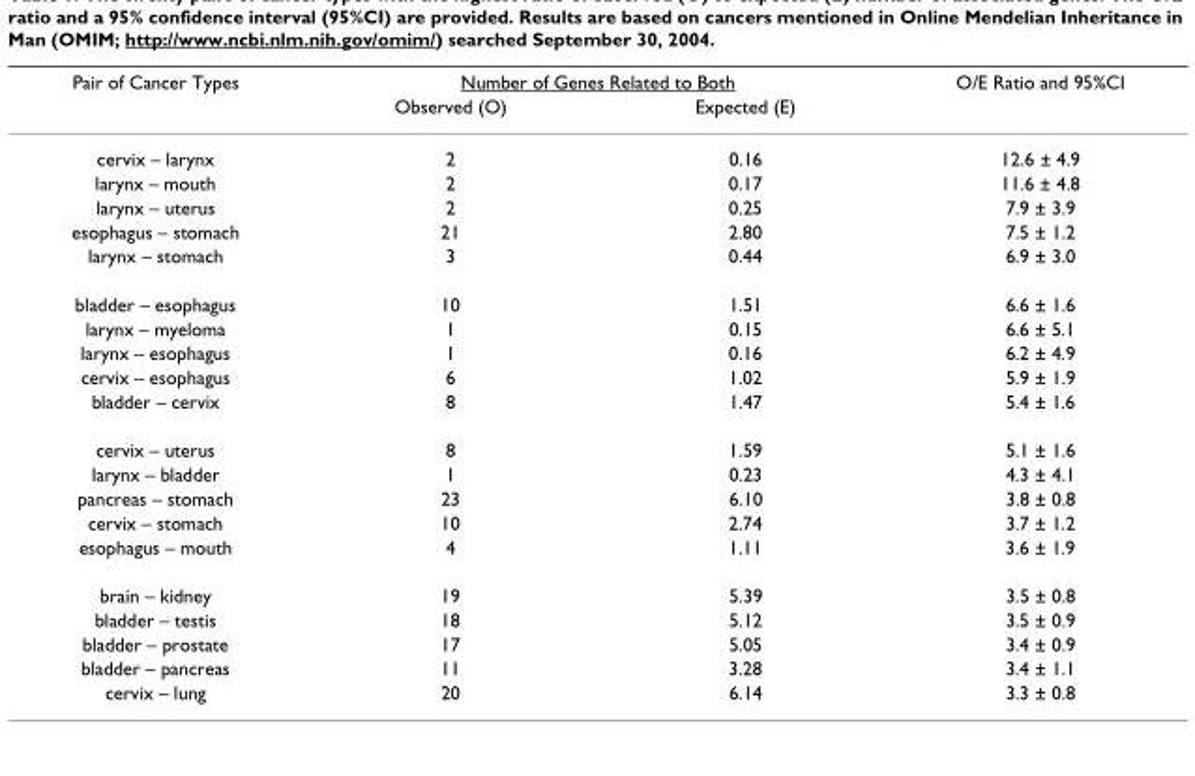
<table><thead><tr><td rowspan="2">Pair of Cancer Types</td><td colspan="2">Number of Genes Related to Both</td><td rowspan="2">O/E Ratio and 95%CI</td></tr><tr><td>Observed (O)</td><td>Expected (E)</td></tr></thead><tbody><tr><td>cervix – larynx</td><td>2</td><td>0.16</td><td>12.6 ± 4.9</td></tr><tr><td>larynx – mouth</td><td>2</td><td>0.17</td><td>11.6 ± 4.8</td></tr><tr><td>larynx – uterus</td><td>2</td><td>0.25</td><td>7.9 ± 3.9</td></tr><tr><td>esophagus – stomach</td><td>21</td><td>2.80</td><td>7.5 ± 1.2</td></tr><tr><td>larynx – stomach</td><td>3</td><td>0.44</td><td>6.9 ± 3.0</td></tr><tr><td>bladder – esophagus</td><td>10</td><td>1.51</td><td>6.6 ± 1.6</td></tr><tr><td>larynx – myeloma</td><td>1</td><td>0.15</td><td>6.6 ± 5.1</td></tr><tr><td>larynx – esophagus</td><td>1</td><td>0.16</td><td>6.2 ± 4.9</td></tr><tr><td>cervix – esophagus</td><td>6</td><td>1.02</td><td>5.9 ± 1.9</td></tr><tr><td>bladder – cervix</td><td>8</td><td>1.47</td><td>5.4 ± 1.6</td></tr><tr><td>cervix – uterus</td><td>8</td><td>1.59</td><td>5.1 ± 1.6</td></tr><tr><td>larynx – bladder</td><td>1</td><td>0.23</td><td>4.3 ± 4.1</td></tr><tr><td>pancreas – stomach</td><td>23</td><td>6.10</td><td>3.8 ± 0.8</td></tr><tr><td>cervix – stomach</td><td>10</td><td>2.74</td><td>3.7 ± 1.2</td></tr><tr><td>esophagus – mouth</td><td>4</td><td>1.11</td><td>3.6 ± 1.9</td></tr><tr><td>brain – kidney</td><td>19</td><td>5.39</td><td>3.5 ± 0.8</td></tr><tr><td>bladder – testis</td><td>18</td><td>5.12</td><td>3.5 ± 0.9</td></tr><tr><td>bladder – prostate</td><td>17</td><td>5.05</td><td>3.4 ± 0.9</td></tr><tr><td>bladder – pancreas</td><td>11</td><td>3.28</td><td>3.4 ± 1.1</td></tr><tr><td>cervix – lung</td><td>20</td><td>6.14</td><td>3.3 ± 0.8</td></tr></tbody></table>